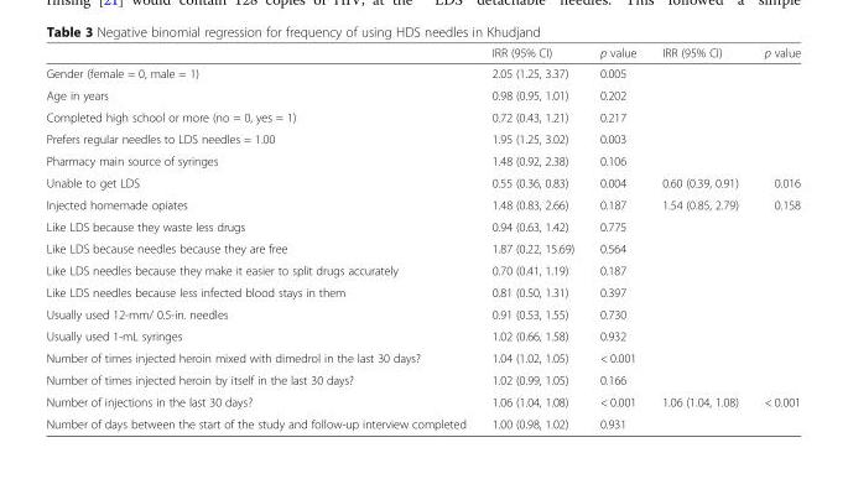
<table><thead><tr><td></td><td>IRR (95% CI)</td><td>p value</td><td>IRR (95% CI)</td><td>p value</td></tr></thead><tbody><tr><td>Gender (female = 0, male = 1)</td><td>2.05 (1.25, 3.37)</td><td>0.005</td><td></td><td></td></tr><tr><td>Age in years</td><td>0.98 (0.95, 1.01)</td><td>0.202</td><td></td><td></td></tr><tr><td>Completed high school or more (no = 0, yes = 1)</td><td>0.72 (0.43, 1.21)</td><td>0.217</td><td></td><td></td></tr><tr><td>Prefers regular needles to LDS needles = 1.00</td><td>1.95 (1.25, 3.02)</td><td>0.003</td><td></td><td></td></tr><tr><td>Pharmacy main source of syringes</td><td>1.48 (0.92, 2.38)</td><td>0.106</td><td></td><td></td></tr><tr><td>Unable to get LDS</td><td>0.55 (0.36, 0.83)</td><td>0.004</td><td>0.60 (0.39, 0.91)</td><td>0.016</td></tr><tr><td>Injected homemade opiates</td><td>1.48 (0.83, 2.66)</td><td>0.187</td><td>1.54 (0.85, 2.79)</td><td>0.158</td></tr><tr><td>Like LDS because they waste less drugs</td><td>0.94 (0.63, 1.42)</td><td>0.775</td><td></td><td></td></tr><tr><td>Like LDS because needles because they are free</td><td>1.87 (0.22, 15.69)</td><td>0.564</td><td></td><td></td></tr><tr><td>Like LDS needles because they make it easier to split drugs accurately</td><td>0.70 (0.41, 1.19)</td><td>0.187</td><td></td><td></td></tr><tr><td>Like LDS needles because less infected blood stays in them</td><td>0.81 (0.50, 1.31)</td><td>0.397</td><td></td><td></td></tr><tr><td>Usually used 12-mm/ 0.5-in. needles</td><td>0.91 (0.53, 1.55)</td><td>0.730</td><td></td><td></td></tr><tr><td>Usually used 1-mL syringes</td><td>1.02 (0.66, 1.58)</td><td>0.932</td><td></td><td></td></tr><tr><td>Number of times injected heroin mixed with dimedrol in the last 30 days?</td><td>1.04 (1.02, 1.05)</td><td>&lt; 0.001</td><td></td><td></td></tr><tr><td>Number of times injected heroin by itself in the last 30 days?</td><td>1.02 (0.99, 1.05)</td><td>0.166</td><td></td><td></td></tr><tr><td>Number of injections in the last 30 days?</td><td>1.06 (1.04, 1.08)</td><td>&lt; 0.001</td><td>1.06 (1.04, 1.08)</td><td>&lt; 0.001</td></tr><tr><td>Number of days between the start of the study and follow-up interview completed</td><td>1.00 (0.98, 1.02)</td><td>0.931</td><td></td><td></td></tr></tbody></table>